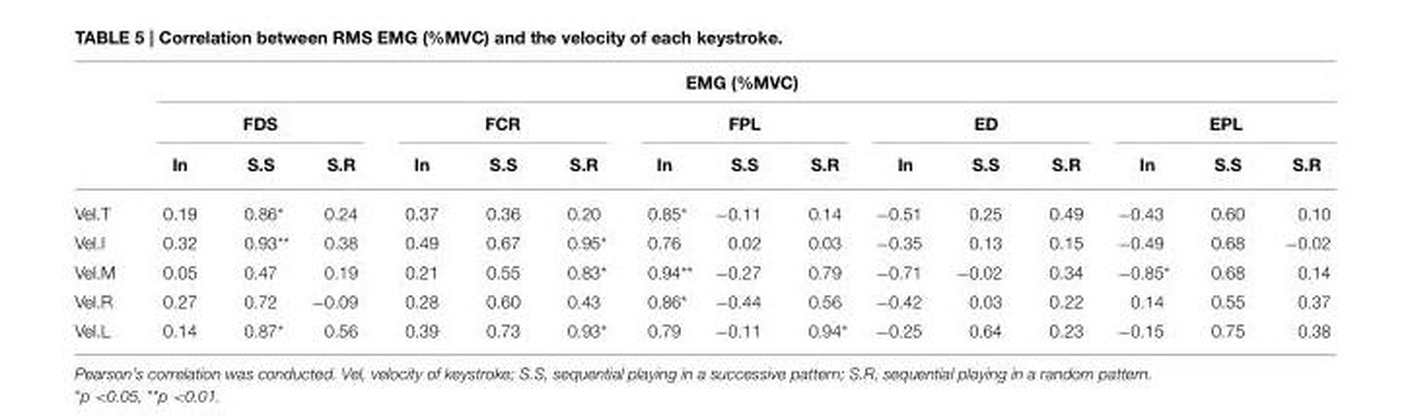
<table><thead><tr><td rowspan="3"></td><td colspan="15">EMG (%MVC)</td></tr><tr><td colspan="3">FDS</td><td colspan="3">FCR</td><td colspan="3">FPL</td><td colspan="3">ED</td><td colspan="3">EPL</td></tr><tr><td>In</td><td>S.S</td><td>S.R</td><td>In</td><td>S.S</td><td>S.R</td><td>In</td><td>S.S</td><td>S.R</td><td>In</td><td>S.S</td><td>S.R</td><td>In</td><td>S.S</td><td>S.R</td></tr></thead><tbody><tr><td>Vel.T</td><td>0.19</td><td>0.86*</td><td>0.24</td><td>0.37</td><td>0.36</td><td>0.20</td><td>0.85*</td><td>−0.11</td><td>0.14</td><td>−0.51</td><td>0.25</td><td>0.49</td><td>−0.43</td><td>0.60</td><td>0.10</td></tr><tr><td>Vel.I</td><td>0.32</td><td>0.93**</td><td>0.38</td><td>0.49</td><td>0.67</td><td>0.95*</td><td>0.76</td><td>0.02</td><td>0.03</td><td>−0.35</td><td>0.13</td><td>0.15</td><td>−0.49</td><td>0.68</td><td>−0.02</td></tr><tr><td>Vel.M</td><td>0.05</td><td>0.47</td><td>0.19</td><td>0.21</td><td>0.55</td><td>0.83*</td><td>0.94**</td><td>−0.27</td><td>0.79</td><td>−0.71</td><td>−0.02</td><td>0.34</td><td>−0.85*</td><td>0.68</td><td>0.14</td></tr><tr><td>Vel.R</td><td>0.27</td><td>0.72</td><td>−0.09</td><td>0.28</td><td>0.60</td><td>0.43</td><td>0.86*</td><td>−0.44</td><td>0.56</td><td>−0.42</td><td>0.03</td><td>0.22</td><td>0.14</td><td>0.55</td><td>0.37</td></tr><tr><td>Vel.L</td><td>0.14</td><td>0.87*</td><td>0.56</td><td>0.39</td><td>0.73</td><td>0.93*</td><td>0.79</td><td>−0.11</td><td>0.94*</td><td>−0.25</td><td>0.64</td><td>0.23</td><td>−0.15</td><td>0.75</td><td>0.38</td></tr></tbody></table>